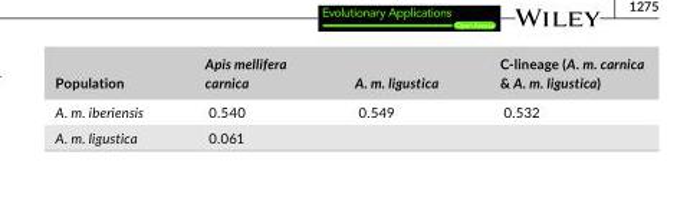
<table><thead><tr><td>Population</td><td>Apis mellifera carnica</td><td>A. m. ligustica</td><td>C- lineage (A. m. carnica &amp; A. m. ligustica)</td></tr></thead><tbody><tr><td>A. m. iberiensis</td><td>0.540</td><td>0.549</td><td>0.532</td></tr><tr><td>A. m. ligustica</td><td>0.061</td><td></td><td></td></tr></tbody></table>